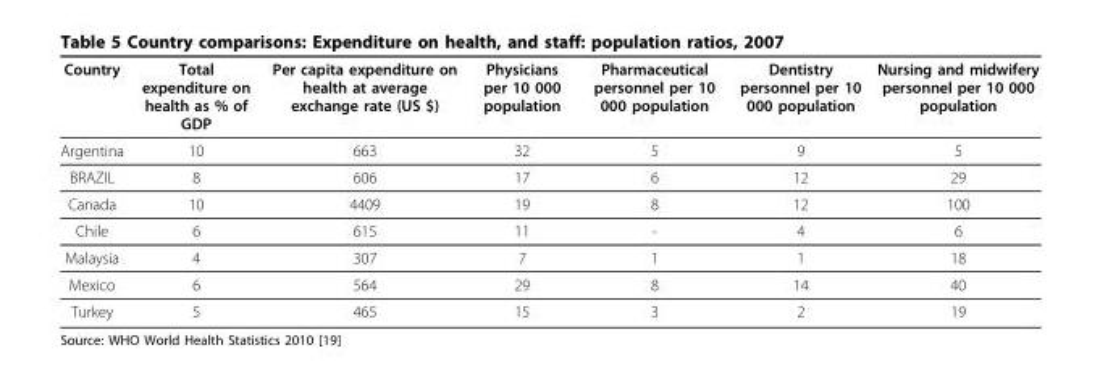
<table><thead><tr><td>Country</td><td>Total expenditure on health as % of GDP</td><td>Per capita expenditure on health at average exchange rate (US $)</td><td>Physicians per 10 000 population</td><td>Pharmaceutical personnel per 10 000 population</td><td>Dentistry personnel per 10 000 population</td><td>Nursing and midwifery personnel per 10 000 population</td></tr></thead><tbody><tr><td>Argentina</td><td>10</td><td>663</td><td>32</td><td>5</td><td>9</td><td>5</td></tr><tr><td>BRAZIL</td><td>8</td><td>606</td><td>17</td><td>6</td><td>12</td><td>29</td></tr><tr><td>Canada</td><td>10</td><td>4409</td><td>19</td><td>8</td><td>12</td><td>100</td></tr><tr><td>Chile</td><td>6</td><td>615</td><td>11</td><td>-</td><td>4</td><td>6</td></tr><tr><td>Malaysia</td><td>4</td><td>307</td><td>7</td><td>1</td><td>1</td><td>18</td></tr><tr><td>Mexico</td><td>6</td><td>564</td><td>29</td><td>8</td><td>14</td><td>40</td></tr><tr><td>Turkey</td><td>5</td><td>465</td><td>15</td><td>3</td><td>2</td><td>19</td></tr></tbody></table>